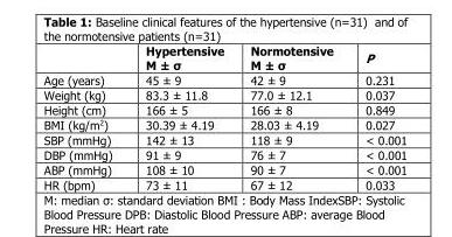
<table><thead><tr><td></td><td>Hypertensive Μ ± σ</td><td>Normotensive M ± σ</td><td>P</td></tr></thead><tbody><tr><td>Age (years)</td><td>45 ± 9</td><td>42 ± 9</td><td>0.231</td></tr><tr><td>Weight (kg)</td><td>83.3 ± 11.8</td><td>77.0 ± 12.1</td><td>0.037</td></tr><tr><td>Height (cm)</td><td>166 ± 5</td><td>166 ± 8</td><td>0.849</td></tr><tr><td>BMI (kg/m<sup>2</sup>)</td><td>30.39 ± 4.19</td><td>28.03 ± 4.19</td><td>0.027</td></tr><tr><td>SBP (mmHg)</td><td>142 ± 13</td><td>118 ± 9</td><td>&lt; 0.001</td></tr><tr><td>DBP (mmHg)</td><td>91 ± 9</td><td>76 ± 7</td><td>&lt; 0.001</td></tr><tr><td>ABP (mmHg)</td><td>108 ± 10</td><td>90 ± 7</td><td>&lt; 0.001</td></tr><tr><td>HR (bpm)</td><td>73 ± 11</td><td>67 ± 12</td><td>0.033</td></tr></tbody></table>